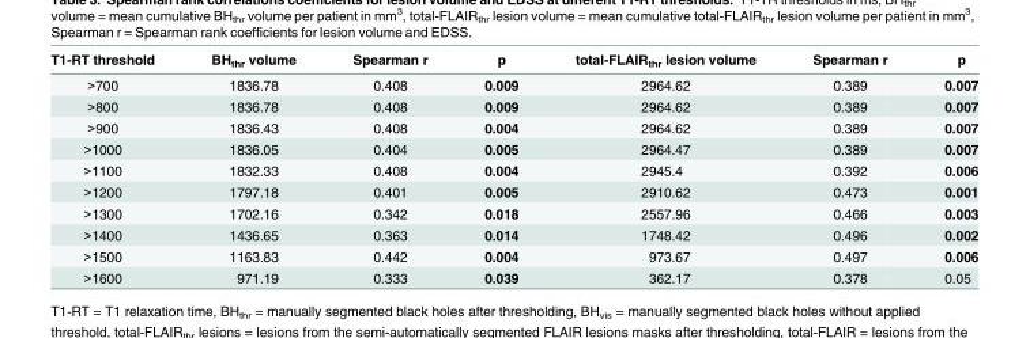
<table><thead><tr><td>T1-RT threshold</td><td>BH<sub>thr</sub> volume</td><td>Spearman r</td><td>p</td><td>total-FLAIR<sub>thr</sub> lesion volume</td><td>Spearman r</td><td>p</td></tr></thead><tbody><tr><td>&gt;700</td><td>1836.78</td><td>0.408</td><td>0.009</td><td>2964.62</td><td>0.389</td><td>0.007</td></tr><tr><td>&gt;800</td><td>1836.78</td><td>0.408</td><td>0.009</td><td>2964.62</td><td>0.389</td><td>0.007</td></tr><tr><td>&gt;900</td><td>1836.43</td><td>0.408</td><td>0.004</td><td>2964.62</td><td>0.389</td><td>0.007</td></tr><tr><td>&gt;1000</td><td>1836.05</td><td>0.404</td><td>0.005</td><td>2964.47</td><td>0.389</td><td>0.007</td></tr><tr><td>&gt;1100</td><td>1832.33</td><td>0.408</td><td>0.004</td><td>2945.4</td><td>0.392</td><td>0.006</td></tr><tr><td>&gt;1200</td><td>1797.18</td><td>0.401</td><td>0.005</td><td>2910.62</td><td>0.473</td><td>0.001</td></tr><tr><td>&gt;1300</td><td>1702.16</td><td>0.342</td><td>0.018</td><td>2557.96</td><td>0.466</td><td>0.003</td></tr><tr><td>&gt;1400</td><td>1436.65</td><td>0.363</td><td>0.014</td><td>1748.42</td><td>0.496</td><td>0.002</td></tr><tr><td>&gt;1500</td><td>1163.83</td><td>0.442</td><td>0.004</td><td>973.67</td><td>0.497</td><td>0.006</td></tr><tr><td>&gt;1600</td><td>971.19</td><td>0.333</td><td>0.039</td><td>362.17</td><td>0.378</td><td>0.05</td></tr></tbody></table>